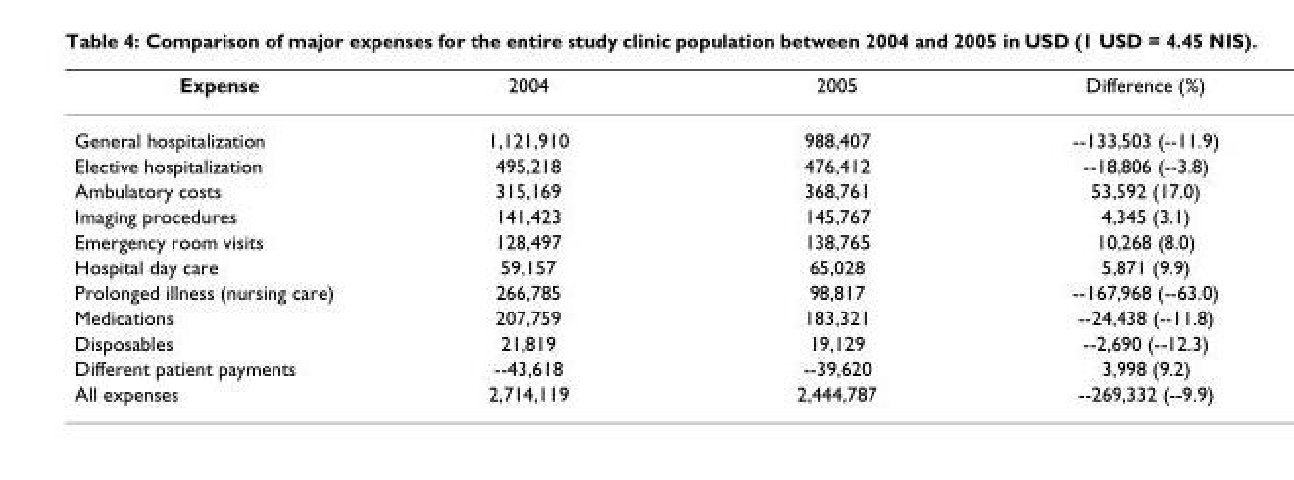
<table><thead><tr><td>Expense</td><td>2004</td><td>2005</td><td>Difference (%)</td></tr></thead><tbody><tr><td>General hospitalization</td><td>1,121,910</td><td>988,407</td><td>--133,503 (--11.9)</td></tr><tr><td>Elective hospitalization</td><td>495,218</td><td>476,412</td><td>--18,806 (--3.8)</td></tr><tr><td>Ambulatory costs</td><td>315,169</td><td>368,761</td><td>53,592 (17.0)</td></tr><tr><td>Imaging procedures</td><td>141,423</td><td>145,767</td><td>4,345 (3.1)</td></tr><tr><td>Emergency room visits</td><td>128,497</td><td>138,765</td><td>10,268 (8.0)</td></tr><tr><td>Hospital day care</td><td>59,157</td><td>65,028</td><td>5,871 (9.9)</td></tr><tr><td>Prolonged illness (nursing care)</td><td>266,785</td><td>98,817</td><td>--167,968 (--63.0)</td></tr><tr><td>Medications</td><td>207,759</td><td>183,321</td><td>--24,438 (--11.8)</td></tr><tr><td>Disposables</td><td>21,819</td><td>19,129</td><td>--2,690 (--12.3)</td></tr><tr><td>Different patient payments</td><td>--43,618</td><td>--39,620</td><td>3,998 (9.2)</td></tr><tr><td>All expenses</td><td>2,714,119</td><td>2,444,787</td><td>--269,332 (--9.9)</td></tr></tbody></table>